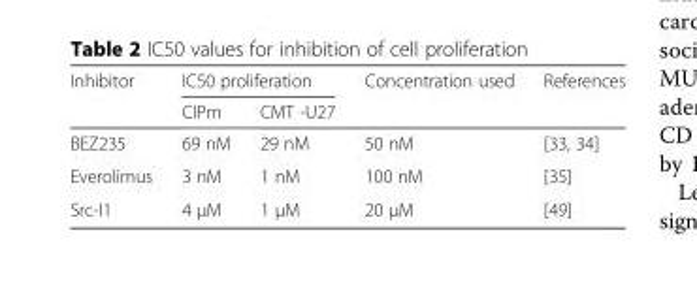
<table><thead><tr><td rowspan="2">Inhibitor</td><td colspan="2">IC50 proliferation</td><td rowspan="2">Concentration used</td><td rowspan="2">References</td></tr><tr><td>CIPm</td><td>CMT -U27</td></tr></thead><tbody><tr><td>BEZ235</td><td>69 nM</td><td>29 nM</td><td>50 nM</td><td>[33, 34]</td></tr><tr><td>Everolimus</td><td>3 nM</td><td>1 nM</td><td>100 nM</td><td>[35]</td></tr><tr><td>Src-I1</td><td>4 μM</td><td>1 μM</td><td>20 μM</td><td>[49]</td></tr></tbody></table>